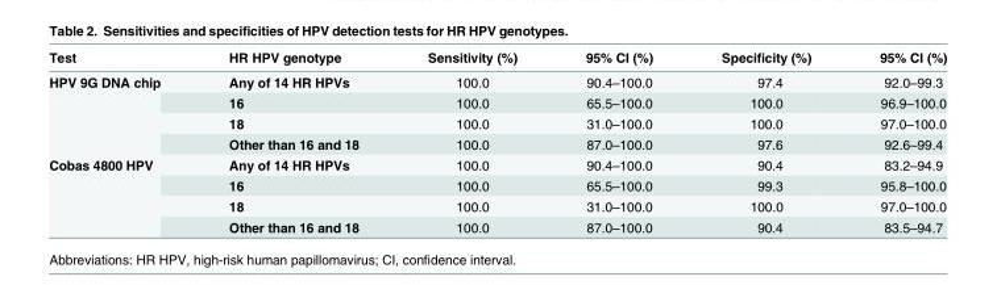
<table><thead><tr><td>Test</td><td>HR HPV genotype</td><td>Sensitivity (%)</td><td>95% CI (%)</td><td>Specificity (%)</td><td>95% CI (%)</td></tr></thead><tbody><tr><td rowspan="4">HPV 9G DNA chip</td><td>Any of 14 HR HPVs</td><td>100.0</td><td>90.4–100.0</td><td>97.4</td><td>92.0–99.3</td></tr><tr><td>16</td><td>100.0</td><td>65.5–100.0</td><td>100.0</td><td>96.9–100.0</td></tr><tr><td>18</td><td>100.0</td><td>31.0–100.0</td><td>100.0</td><td>97.0–100.0</td></tr><tr><td>Other than 16 and 18</td><td>100.0</td><td>87.0–100.0</td><td>97.6</td><td>92.6–99.4</td></tr><tr><td rowspan="4">Cobas 4800 HPV</td><td>Any of 14 HR HPVs</td><td>100.0</td><td>90.4–100.0</td><td>90.4</td><td>83.2–94.9</td></tr><tr><td>16</td><td>100.0</td><td>65.5–100.0</td><td>99.3</td><td>95.8–100.0</td></tr><tr><td>18</td><td>100.0</td><td>31.0–100.0</td><td>100.0</td><td>97.0–100.0</td></tr><tr><td>Other than 16 and 18</td><td>100.0</td><td>87.0–100.0</td><td>90.4</td><td>83.5–94.7</td></tr></tbody></table>